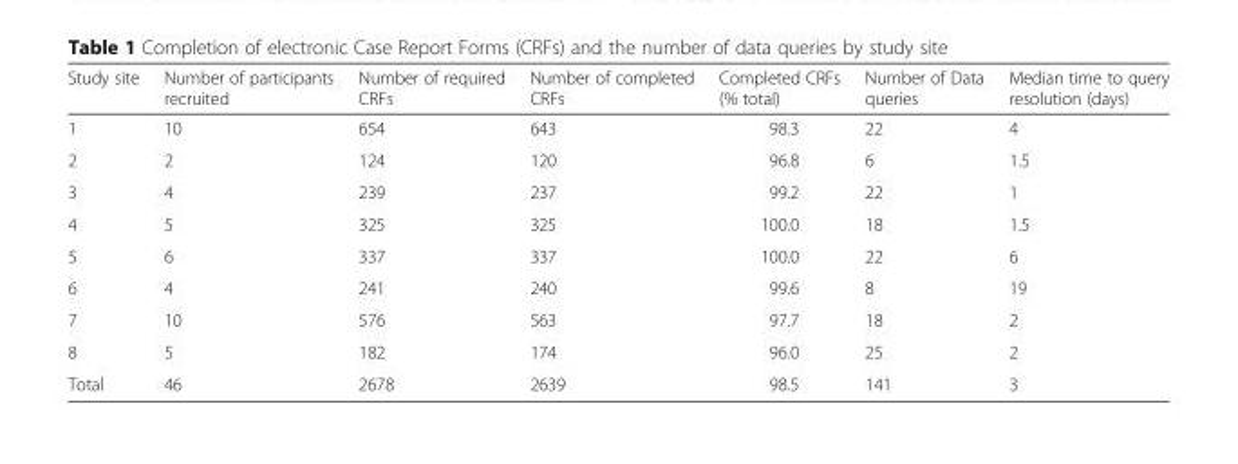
<table><thead><tr><td>Study site</td><td>Number of participants recruited</td><td>Number of required CRFs</td><td>Number of completed CRFs</td><td>Completed CRFs (% total)</td><td>Number of Data queries</td><td>Median time to query resolution (days)</td></tr></thead><tbody><tr><td>1</td><td>10</td><td>654</td><td>643</td><td>98.3</td><td>22</td><td>4</td></tr><tr><td>2</td><td>2</td><td>124</td><td>120</td><td>96.8</td><td>6</td><td>1.5</td></tr><tr><td>3</td><td>4</td><td>239</td><td>237</td><td>99.2</td><td>22</td><td>1</td></tr><tr><td>4</td><td>5</td><td>325</td><td>325</td><td>100.0</td><td>18</td><td>1.5</td></tr><tr><td>5</td><td>6</td><td>337</td><td>337</td><td>100.0</td><td>22</td><td>6</td></tr><tr><td>6</td><td>4</td><td>241</td><td>240</td><td>99.6</td><td>8</td><td>19</td></tr><tr><td>7</td><td>10</td><td>576</td><td>563</td><td>97.7</td><td>18</td><td>2</td></tr><tr><td>8</td><td>5</td><td>182</td><td>174</td><td>96.0</td><td>25</td><td>2</td></tr><tr><td>Total</td><td>46</td><td>2678</td><td>2639</td><td>98.5</td><td>141</td><td>3</td></tr></tbody></table>